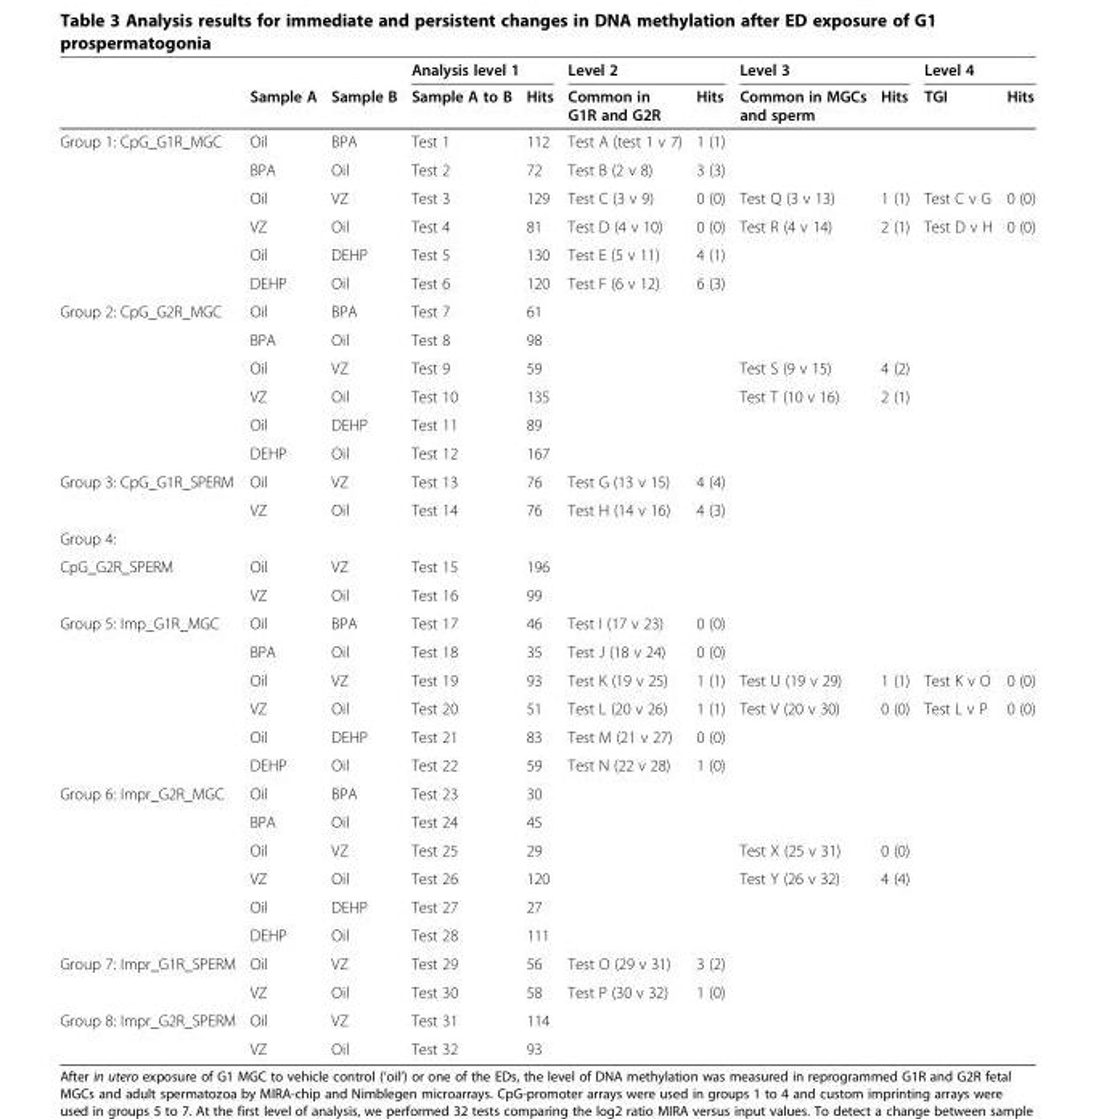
<table><thead><tr><td rowspan="2"></td><td rowspan="2">Sample A</td><td rowspan="2">Sample B</td><td colspan="2">Analysis level 1</td><td colspan="2">Level 2</td><td colspan="2">Level 3</td><td colspan="2">Level 4</td></tr><tr><td>Sample A to B</td><td>Hits</td><td>Common in G1R and G2R</td><td>Hits</td><td>Common in MGCs and sperm</td><td>Hits</td><td>TGI</td><td>Hits</td></tr></thead><tbody><tr><td rowspan="6">Group 1: CpG_G1R_MGC</td><td>Oil</td><td>BPA</td><td>Test 1</td><td>112</td><td>Test A (test 1 v 7)</td><td>1 (1)</td><td></td><td></td><td></td><td></td></tr><tr><td>BPA</td><td>Oil</td><td>Test 2</td><td>72</td><td>Test B (2 v 8)</td><td>3 (3)</td><td></td><td></td><td></td><td></td></tr><tr><td>Oil</td><td>VZ</td><td>Test 3</td><td>129</td><td>Test C (3 v 9)</td><td>0 (0)</td><td>Test Q (3 v 13)</td><td>1 (1)</td><td>Test C v G</td><td>0 (0)</td></tr><tr><td>VZ</td><td>Oil</td><td>Test 4</td><td>81</td><td>Test D (4 v 10)</td><td>0 (0)</td><td>Test R (4 v 14)</td><td>2 (1)</td><td>Test D v H</td><td>0 (0)</td></tr><tr><td>Oil</td><td>DEHP</td><td>Test 5</td><td>130</td><td>Test E (5 v 11)</td><td>4 (1)</td><td></td><td></td><td></td><td></td></tr><tr><td>DEHP</td><td>Oil</td><td>Test 6</td><td>120</td><td>Test F (6 v 12)</td><td>6 (3)</td><td></td><td></td><td></td><td></td></tr><tr><td rowspan="6">Group 2: CpG_G2R_MGC</td><td>Oil</td><td>BPA</td><td>Test 7</td><td>61</td><td></td><td></td><td></td><td></td><td></td><td></td></tr><tr><td>BPA</td><td>Oil</td><td>Test 8</td><td>98</td><td></td><td></td><td></td><td></td><td></td><td></td></tr><tr><td>Oil</td><td>VZ</td><td>Test 9</td><td>59</td><td></td><td></td><td>Test S (9 v 15)</td><td>4 (2)</td><td></td><td></td></tr><tr><td>VZ</td><td>Oil</td><td>Test 10</td><td>135</td><td></td><td></td><td>Test T (10 v 16)</td><td>2 (1)</td><td></td><td></td></tr><tr><td>Oil</td><td>DEHP</td><td>Test 11</td><td>89</td><td></td><td></td><td></td><td></td><td></td><td></td></tr><tr><td>DEHP</td><td>Oil</td><td>Test 12</td><td>167</td><td></td><td></td><td></td><td></td><td></td><td></td></tr><tr><td rowspan="2">Group 3: CpG_G1R_SPERM</td><td>Oil</td><td>VZ</td><td>Test 13</td><td>76</td><td>Test G (13 v 15)</td><td>4 (4)</td><td></td><td></td><td></td><td></td></tr><tr><td>VZ</td><td>Oil</td><td>Test 14</td><td>76</td><td>Test H (14 v 16)</td><td>4 (3)</td><td></td><td></td><td></td><td></td></tr><tr><td colspan="11">Group 4:</td></tr><tr><td rowspan="2">CpG_G2R_SPERM</td><td>Oil</td><td>VZ</td><td>Test 15</td><td>196</td><td></td><td></td><td></td><td></td><td></td><td></td></tr><tr><td>VZ</td><td>Oil</td><td>Test 16</td><td>99</td><td></td><td></td><td></td><td></td><td></td><td></td></tr><tr><td rowspan="6">Group 5: Imp_G1R_MGC</td><td>Oil</td><td>BPA</td><td>Test 17</td><td>46</td><td>Test I (17 v 23)</td><td>0 (0)</td><td></td><td></td><td></td><td></td></tr><tr><td>BPA</td><td>Oil</td><td>Test 18</td><td>35</td><td>Test J (18 v 24)</td><td>0 (0)</td><td></td><td></td><td></td><td></td></tr><tr><td>Oil</td><td>VZ</td><td>Test 19</td><td>93</td><td>Test K (19 v 25)</td><td>1 (1)</td><td>Test U (19 v 29)</td><td>1 (1)</td><td>Test K v O</td><td>0 (0)</td></tr><tr><td>VZ</td><td>Oil</td><td>Test 20</td><td>51</td><td>Test L (20 v 26)</td><td>1 (1)</td><td>Test V (20 v 30)</td><td>0 (0)</td><td>Test L v P</td><td>0 (0)</td></tr><tr><td>Oil</td><td>DEHP</td><td>Test 21</td><td>83</td><td>Test M (21 v 27)</td><td>0 (0)</td><td></td><td></td><td></td><td></td></tr><tr><td>DEHP</td><td>Oil</td><td>Test 22</td><td>59</td><td>Test N (22 v 28)</td><td>1 (0)</td><td></td><td></td><td></td><td></td></tr><tr><td rowspan="6">Group 6: Impr_G2R_MGC</td><td>Oil</td><td>BPA</td><td>Test 23</td><td>30</td><td></td><td></td><td></td><td></td><td></td><td></td></tr><tr><td>BPA</td><td>Oil</td><td>Test 24</td><td>45</td><td></td><td></td><td></td><td></td><td></td><td></td></tr><tr><td>Oil</td><td>VZ</td><td>Test 25</td><td>29</td><td></td><td></td><td>Test X (25 v 31)</td><td>0 (0)</td><td></td><td></td></tr><tr><td>VZ</td><td>Oil</td><td>Test 26</td><td>120</td><td></td><td></td><td>Test Y (26 v 32)</td><td>4 (4)</td><td></td><td></td></tr><tr><td>Oil</td><td>DEHP</td><td>Test 27</td><td>27</td><td></td><td></td><td></td><td></td><td></td><td></td></tr><tr><td>DEHP</td><td>Oil</td><td>Test 28</td><td>111</td><td></td><td></td><td></td><td></td><td></td><td></td></tr><tr><td rowspan="2">Group 7: Impr_G1R_SPERM</td><td>Oil</td><td>VZ</td><td>Test 29</td><td>56</td><td>Test O (29 v 31)</td><td>3 (2)</td><td></td><td></td><td></td><td></td></tr><tr><td>VZ</td><td>Oil</td><td>Test 30</td><td>58</td><td>Test P (30 v 32)</td><td>1 (0)</td><td></td><td></td><td></td><td></td></tr><tr><td rowspan="2">Group 8: Impr_G2R_SPERM</td><td>Oil</td><td>VZ</td><td>Test 31</td><td>114</td><td></td><td></td><td></td><td></td><td></td><td></td></tr><tr><td>VZ</td><td>Oil</td><td>Test 32</td><td>93</td><td></td><td></td><td></td><td></td><td></td><td></td></tr></tbody></table>